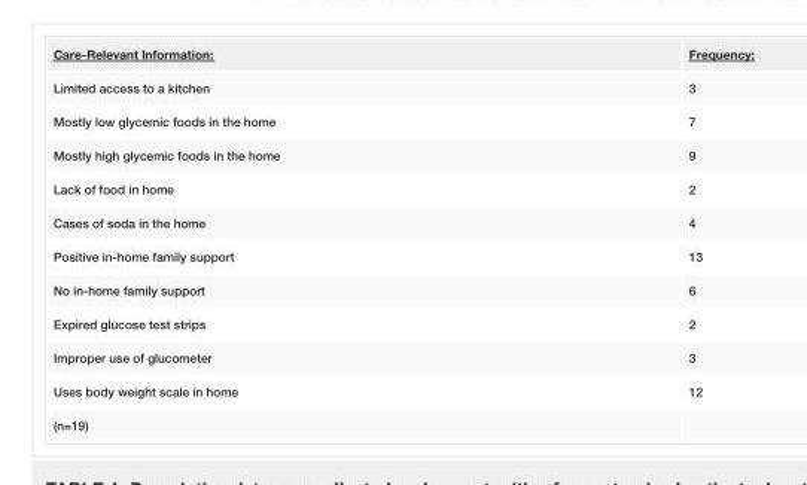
<table><tbody><tr><td>Care-Relevant Information:</td><td>Frequency:</td></tr><tr><td>Limited access to a kitchen</td><td>3</td></tr><tr><td>Mostly low glycemic foods in the home</td><td>7</td></tr><tr><td>Mostly high glycemic foods in the home</td><td>9</td></tr><tr><td>Lack of food in home</td><td>2</td></tr><tr><td>Cases of soda in the home</td><td>4</td></tr><tr><td>Positive in-home family support</td><td>13</td></tr><tr><td>No in-home family support</td><td>6</td></tr><tr><td>Expired glucose test strips</td><td>2</td></tr><tr><td>Improper use of glucometer</td><td>3</td></tr><tr><td>Uses body weight scale in home</td><td>12</td></tr><tr><td>(n=19)</td><td></td></tr></tbody></table>